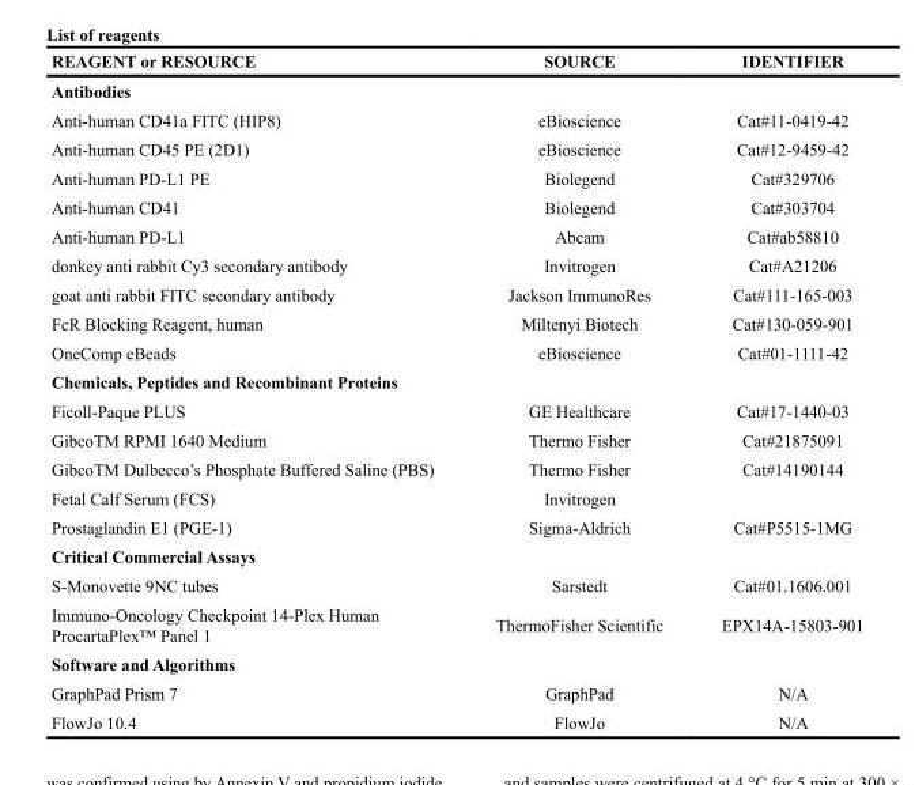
<table><thead><tr><td>REAGENT or RESOURCE</td><td>SOURCE</td><td>IDENTIFIER</td></tr></thead><tbody><tr><td colspan="3">Antibodies</td></tr><tr><td>Anti-human CD41a FITC (HIP8)</td><td>eBioscience</td><td>Cat#11-0419-42</td></tr><tr><td>Anti-human CD45 PE (2D1)</td><td>eBioscience</td><td>Cat#12-9459-42</td></tr><tr><td>Anti-human PD-L1 PE</td><td>Biolegend</td><td>Cat#329706</td></tr><tr><td>Anti-human CD41</td><td>Biolegend</td><td>Cat#303704</td></tr><tr><td>Anti-human PD-L1</td><td>Abcam</td><td>Cat#ab58810</td></tr><tr><td>donkey anti rabbit Cy3 secondary antibody</td><td>Invitrogen</td><td>Cat#A21206</td></tr><tr><td>goat anti rabbit FITC secondary antibody</td><td>Jackson ImmunoRes</td><td>Cat#111-165-003</td></tr><tr><td>FcR Blocking Reagent, human</td><td>Miltenyi Biotech</td><td>Cat#130-059-901</td></tr><tr><td>OneComp eBeads</td><td>eBioscience</td><td>Cat#01-1111-42</td></tr><tr><td colspan="3">Chemicals, Peptides and Recombinant Proteins</td></tr><tr><td>Ficoll-Paque PLUS</td><td>GE Healthcare</td><td>Cat#17-1440-03</td></tr><tr><td>GibcoTM RPMI 1640 Medium</td><td>Thermo Fisher</td><td>Cat#21875091</td></tr><tr><td>GibcoTM Dulbecco’s Phosphate Buffered Saline (PBS)</td><td>Thermo Fisher</td><td>Cat#14190144</td></tr><tr><td>Fetal Calf Serum (FCS)</td><td>Invitrogen</td><td></td></tr><tr><td>Prostaglandin E1 (PGE-1)</td><td>Sigma-Aldrich</td><td>Cat#P5515-1MG</td></tr><tr><td colspan="3">Critical Commercial Assays</td></tr><tr><td>S-Monovette 9NC tubes</td><td>Sarstedt</td><td>Cat#01.1606.001</td></tr><tr><td>Immuno-Oncology Checkpoint 14-Plex Human ProcartaPlex™ Panel 1</td><td>ThermoFisher Scientific</td><td>EPX14A-15803-901</td></tr><tr><td colspan="3">Software and Algorithms</td></tr><tr><td>GraphPad Prism 7</td><td>GraphPad</td><td>N/A</td></tr><tr><td>FlowJo 10.4</td><td>FlowJo</td><td>N/A</td></tr></tbody></table>